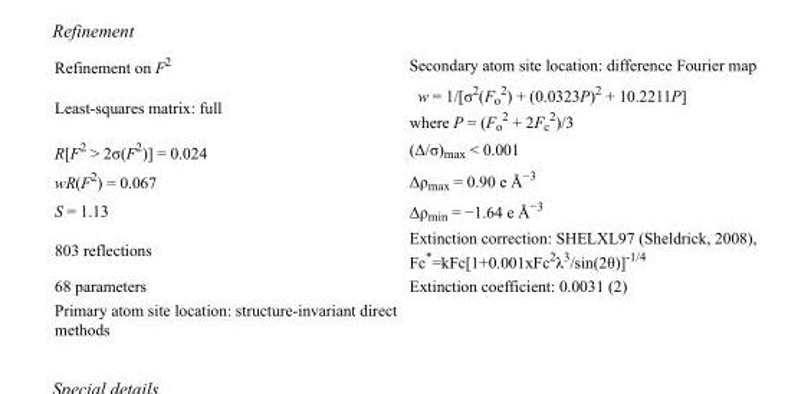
<table><tbody><tr><td>Refinement on F<sup>2</sup></td><td>Secondary atom site location: difference Fourier map</td></tr><tr><td>Least-squares matrix: full</td><td>w = 1/[σ<sup>2</sup>(F<sub>o</sub> <sup>2</sup>) + (0.0323P)<sup>2</sup> + 10.2211P] where P = (F<sub>o</sub> <sup>2</sup> + 2F<sub>c</sub> <sup>2</sup>)/3</td></tr><tr><td>R[F<sup>2</sup> &gt; 2σ(F<sup>2</sup>)] = 0.024</td><td>(Δ/σ)<sub>max</sub> &lt; 0.001</td></tr><tr><td>wR(F<sup>2</sup>) = 0.067</td><td>Δρ<sub>max</sub> = 0.90 e Å<sup>−3</sup></td></tr><tr><td>S = 1.13</td><td>Δρ<sub>min</sub> = −1.64 e Å<sup>−3</sup></td></tr><tr><td>803 reflections</td><td>Extinction correction: SHELXL97 (Sheldrick, 2008), Fc*=kFc[1+0.001xFc<sup>2</sup>λ<sup>3</sup>/sin(2θ)]<sup>-1/4</sup></td></tr><tr><td>68 parameters</td><td>Extinction coefficient: 0.0031 (2)</td></tr><tr><td>Primary atom site location: structure-invariant direct methods</td><td></td></tr></tbody></table>